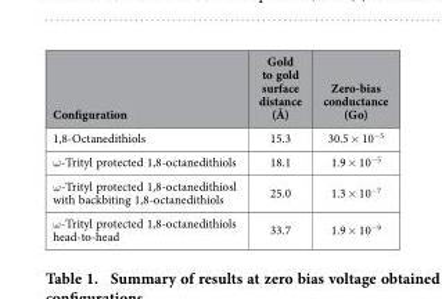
<table><thead><tr><td>Configuration</td><td>Gold to gold surface distance (Å)</td><td>Zero-bias conductance (Go)</td></tr></thead><tbody><tr><td>1,8-Octanedithiols</td><td>15.3</td><td>30.5 × 10<sup>−5</sup></td></tr><tr><td>ω -Trityl protected 1,8-octanedithiols</td><td>18.1</td><td>1.9 × 10<sup>−5</sup></td></tr><tr><td>ω -Trityl protected 1,8-octanedithiosl with backbiting 1,8-octanedithiols</td><td>25.0</td><td>1.3 × 10<sup>−7</sup></td></tr><tr><td>ω -Trityl protected 1,8-octanedithiols head-to-head</td><td>33.7</td><td>1.9 × 10<sup>−9</sup></td></tr></tbody></table>